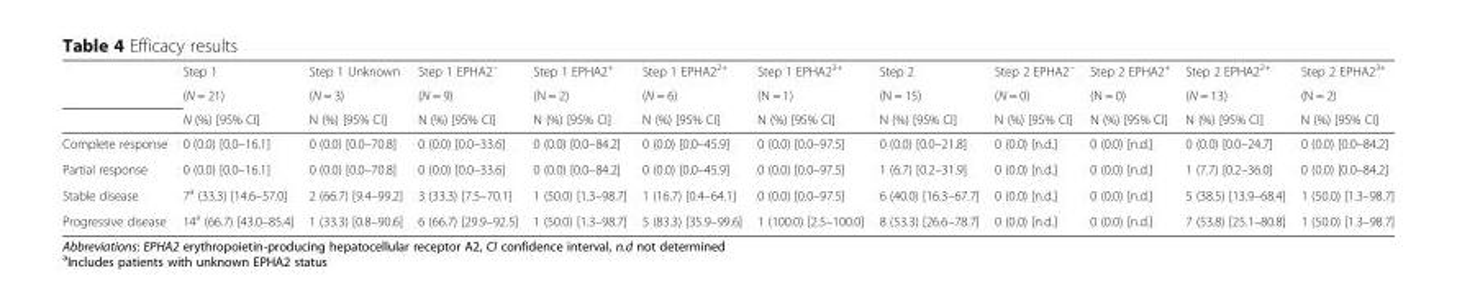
<table><thead><tr><td rowspan="3"></td><td rowspan="3">Step 1 (N = 21) N (%) [95% CI]</td><td rowspan="3">Step 1 Unknown (N = 3) N (%) [95% CI]</td><td rowspan="3">Step 1 EPHA2− (N = 9) N (%) [95% CI]</td><td rowspan="3">Step 1 EPHA2+ (N = 2) N (%) [95% CI]</td><td rowspan="3">Step 1 EPHA22+ (N = 6) N (%) [95% CI]</td><td rowspan="3">Step 1 EPHA23+ (N = 1) N (%) [95% CI]</td><td rowspan="3">Step 2 (N = 15) N (%) [95% CI]</td><td rowspan="3">Step 2 EPHA2− (N = 0) N (%) [95% CI]</td><td rowspan="3">Step 2 EPHA2+ (N = 0) N (%) [95% CI]</td><td rowspan="3">Step 2 EPHA22+ (N = 13) N (%) [95% CI]</td><td rowspan="3">Step 2 EPHA23+ (N = 2) N (%) [95% CI]</td></tr><tr></tr><tr></tr></thead><tbody><tr><td>Complete response</td><td>0 (0.0) [0.0–16.1]</td><td>0 (0.0) [0.0–70.8]</td><td>0 (0.0) [0.0–33.6]</td><td>0 (0.0) [0.0–84.2]</td><td>0 (0.0) [0.0–45.9]</td><td>0 (0.0) [0.0–97.5]</td><td>0 (0.0) [0.0–21.8]</td><td>0 (0.0) [n.d.]</td><td>0 (0.0) [n.d.]</td><td>0 (0.0) [0.0–24.7]</td><td>0 (0.0) [0.0–84.2]</td></tr><tr><td>Partial response</td><td>0 (0.0) [0.0–16.1]</td><td>0 (0.0) [0.0–70.8]</td><td>0 (0.0) [0.0–33.6]</td><td>0 (0.0) [0.0–84.2]</td><td>0 (0.0) [0.0–45.9]</td><td>0 (0.0) [0.0–97.5]</td><td>1 (6.7) [0.2–31.9]</td><td>0 (0.0) [n.d.]</td><td>0 (0.0) [n.d.]</td><td>1 (7.7) [0.2–36.0]</td><td>0 (0.0) [0.0–84.2]</td></tr><tr><td>Stable disease</td><td>7<sup>a</sup> (33.3) [14.6–57.0]</td><td>2 (66.7) [9.4–99.2]</td><td>3 (33.3) [7.5–70.1]</td><td>1 (50.0) [1.3–98.7]</td><td>1 (16.7) [0.4–64.1]</td><td>0 (0.0) [0.0–97.5]</td><td>6 (40.0) [16.3–67.7]</td><td>0 (0.0) [n.d.]</td><td>0 (0.0) [n.d.]</td><td>5 (38.5) [13.9–68.4]</td><td>1 (50.0) [1.3–98.7]</td></tr><tr><td>Progressive disease</td><td>14<sup>a</sup> (66.7) [43.0–85.4]</td><td>1 (33.3) [0.8–90.6]</td><td>6 (66.7) [29.9–92.5]</td><td>1 (50.0) [1.3–98.7]</td><td>5 (83.3) [35.9–99.6]</td><td>1 (100.0) [2.5–100.0]</td><td>8 (53.3) [26.6–78.7]</td><td>0 (0.0) [n.d.]</td><td>0 (0.0) [n.d.]</td><td>7 (53.8) [25.1–80.8]</td><td>1 (50.0) [1.3–98.7]</td></tr></tbody></table>